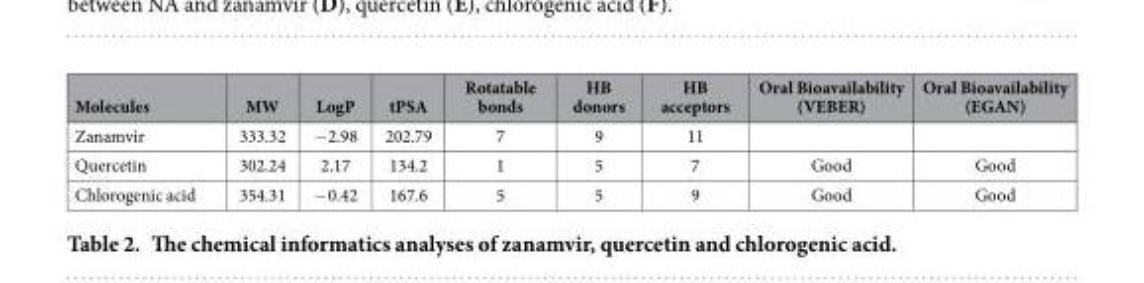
<table><thead><tr><td>Molecules</td><td>MW</td><td>LogP</td><td>tPSA</td><td>Rotatable bonds</td><td>HB donors</td><td>HB acceptors</td><td>Oral Bioavailability (VEBER)</td><td>Oral Bioavailability (EGAN)</td></tr></thead><tbody><tr><td>Zanamvir</td><td>333.32</td><td>− 2.98</td><td>202.79</td><td>7</td><td>9</td><td>11</td><td></td><td></td></tr><tr><td>Quercetin</td><td>302.24</td><td>2.17</td><td>134.2</td><td>1</td><td>5</td><td>7</td><td>Good</td><td>Good</td></tr><tr><td>Chlorogenic acid</td><td>354.31</td><td>− 0.42</td><td>167.6</td><td>5</td><td>5</td><td>9</td><td>Good</td><td>Good</td></tr></tbody></table>